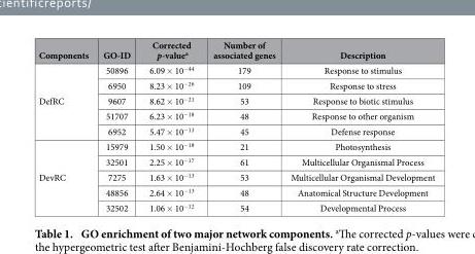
<table><thead><tr><td>Components</td><td>GO-ID</td><td>Corrected p-value<sup>a</sup></td><td>Number of associated genes</td><td>Description</td></tr></thead><tbody><tr><td rowspan="5">DefRC</td><td>50896</td><td>6.09 × 10<sup>−44</sup></td><td>179</td><td>Response to stimulus</td></tr><tr><td>6950</td><td>8.23 × 10<sup>−26</sup></td><td>109</td><td>Response to stress</td></tr><tr><td>9607</td><td>8.62 × 10<sup>−21</sup></td><td>53</td><td>Response to biotic stimulus</td></tr><tr><td>51707</td><td>6.23 × 10<sup>−18</sup></td><td>48</td><td>Response to other organism</td></tr><tr><td>6952</td><td>5.47 × 10<sup>−13</sup></td><td>45</td><td>Defense response</td></tr><tr><td rowspan="5">DevRC</td><td>15979</td><td>1.50 × 10<sup>−18</sup></td><td>21</td><td>Photosynthesis</td></tr><tr><td>32501</td><td>2.25 × 10<sup>−17</sup></td><td>61</td><td>Multicellular Organismal Process</td></tr><tr><td>7275</td><td>1.63 × 10<sup>−13</sup></td><td>53</td><td>Multicellular Organismal Development</td></tr><tr><td>48856</td><td>2.64 × 10<sup>−13</sup></td><td>48</td><td>Anatomical Structure Development</td></tr><tr><td>32502</td><td>1.06 × 10<sup>−12</sup></td><td>54</td><td>Developmental Process</td></tr></tbody></table>